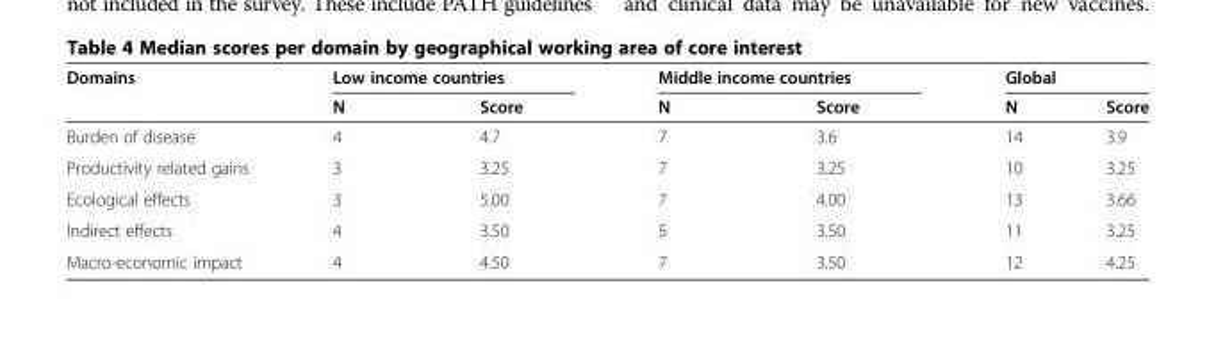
<table><thead><tr><td rowspan="2">Domains</td><td colspan="2">Low income countries</td><td colspan="2">Middle income countries</td><td colspan="2">Global</td></tr><tr><td>N</td><td>Score</td><td>N</td><td>Score</td><td>N</td><td>Score</td></tr></thead><tbody><tr><td>Burden of disease</td><td>4</td><td>4.7</td><td>7</td><td>3.6</td><td>14</td><td>3.9</td></tr><tr><td>Productivity related gains</td><td>3</td><td>3.25</td><td>7</td><td>3.25</td><td>10</td><td>3.25</td></tr><tr><td>Ecological effects</td><td>3</td><td>5.00</td><td>7</td><td>4.00</td><td>13</td><td>3.66</td></tr><tr><td>Indirect effects</td><td>4</td><td>3.50</td><td>5</td><td>3.50</td><td>11</td><td>3.25</td></tr><tr><td>Macro-economic impact</td><td>4</td><td>4.50</td><td>7</td><td>3.50</td><td>12</td><td>4.25</td></tr></tbody></table>